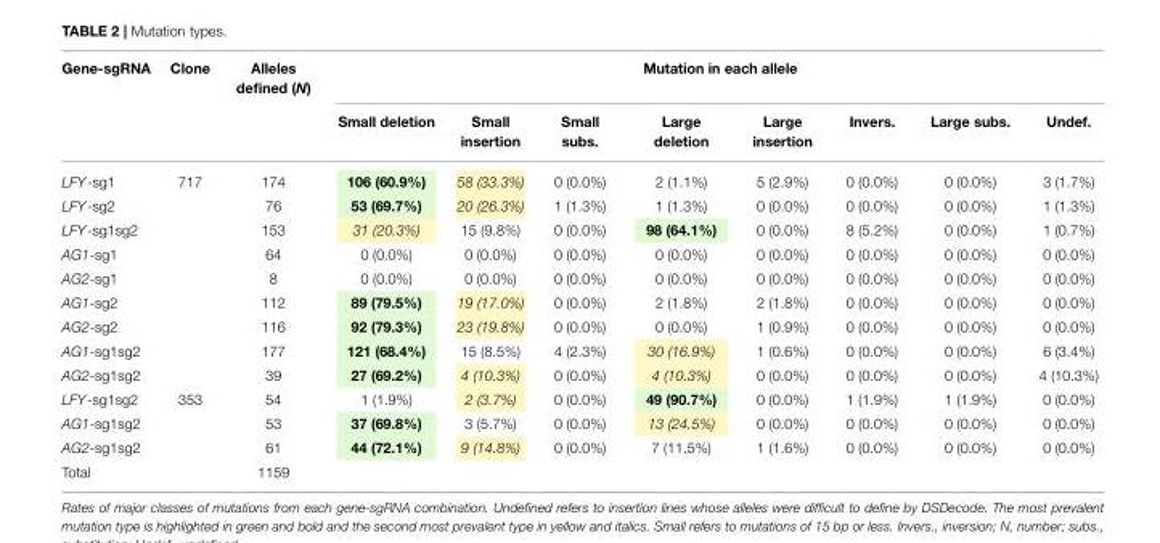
<table><thead><tr><td rowspan="2">Gene-sgRNA</td><td rowspan="2">Clone</td><td rowspan="2">Alleles defined (N)</td><td colspan="8">Mutation in each allele</td></tr><tr><td>Small deletion</td><td>Small insertion</td><td>Small subs.</td><td>Large deletion</td><td>Large insertion</td><td>Invers.</td><td>Large subs.</td><td>Undef.</td></tr></thead><tbody><tr><td>LFY-sg1</td><td>717</td><td>174</td><td>106 (60.9%)</td><td>58 (33.3%)</td><td>0 (0.0%)</td><td>2 (1.1%)</td><td>5 (2.9%)</td><td>0 (0.0%)</td><td>0 (0.0%)</td><td>3 (1.7%)</td></tr><tr><td>LFY-sg2</td><td></td><td>76</td><td>53 (69.7%)</td><td>20 (26.3%)</td><td>1 (1.3%)</td><td>1 (1.3%)</td><td>0 (0.0%)</td><td>0 (0.0%)</td><td>0 (0.0%)</td><td>1 (1.3%)</td></tr><tr><td>LFY-sg1sg2</td><td></td><td>153</td><td>31 (20.3%)</td><td>15 (9.8%)</td><td>0 (0.0%)</td><td>98 (64.1%)</td><td>0 (0.0%)</td><td>8 (5.2%)</td><td>0 (0.0%)</td><td>1 (0.7%)</td></tr><tr><td>AG1-sg1</td><td></td><td>64</td><td>0 (0.0%)</td><td>0 (0.0%)</td><td>0 (0.0%)</td><td>0 (0.0%)</td><td>0 (0.0%)</td><td>0 (0.0%)</td><td>0 (0.0%)</td><td>0 (0.0%)</td></tr><tr><td>AG2-sg1</td><td></td><td>8</td><td>0 (0.0%)</td><td>0 (0.0%)</td><td>0 (0.0%)</td><td>0 (0.0%)</td><td>0 (0.0%)</td><td>0 (0.0%)</td><td>0 (0.0%)</td><td>0 (0.0%)</td></tr><tr><td>AG1-sg2</td><td></td><td>112</td><td>89 (79.5%)</td><td>19 (17.0%)</td><td>0 (0.0%)</td><td>2 (1.8%)</td><td>2 (1.8%)</td><td>0 (0.0%)</td><td>0 (0.0%)</td><td>0 (0.0%)</td></tr><tr><td>AG2-sg2</td><td></td><td>116</td><td>92 (79.3%)</td><td>23 (19.8%)</td><td>0 (0.0%)</td><td>0 (0.0%)</td><td>1 (0.9%)</td><td>0 (0.0%)</td><td>0 (0.0%)</td><td>0 (0.0%)</td></tr><tr><td>AG1-sg1sg2</td><td></td><td>177</td><td>121 (68.4%)</td><td>15 (8.5%)</td><td>4 (2.3%)</td><td>30 (16.9%)</td><td>1 (0.6%)</td><td>0 (0.0%)</td><td>0 (0.0%)</td><td>6 (3.4%)</td></tr><tr><td>AG2-sg1sg2</td><td></td><td>39</td><td>27 (69.2%)</td><td>4 (10.3%)</td><td>0 (0.0%)</td><td>4 (10.3%)</td><td>0 (0.0%)</td><td>0 (0.0%)</td><td>0 (0.0%)</td><td>4 (10.3%)</td></tr><tr><td>LFY-sg1sg2</td><td>353</td><td>54</td><td>1 (1.9%)</td><td>2 (3.7%)</td><td>0 (0.0%)</td><td>49 (90.7%)</td><td>0 (0.0%)</td><td>1 (1.9%)</td><td>1 (1.9%)</td><td>0 (0.0%)</td></tr><tr><td>AG1-sg1sg2</td><td></td><td>53</td><td>37 (69.8%)</td><td>3 (5.7%)</td><td>0 (0.0%)</td><td>13 (24.5%)</td><td>0 (0.0%)</td><td>0 (0.0%)</td><td>0 (0.0%)</td><td>0 (0.0%)</td></tr><tr><td>AG2-sg1sg2</td><td></td><td>61</td><td>44 (72.1%)</td><td>9 (14.8%)</td><td>0 (0.0%)</td><td>7 (11.5%)</td><td>1 (1.6%)</td><td>0 (0.0%)</td><td>0 (0.0%)</td><td>0 (0.0%)</td></tr><tr><td>Total</td><td></td><td>1159</td><td></td><td></td><td></td><td></td><td></td><td></td><td></td><td></td></tr></tbody></table>